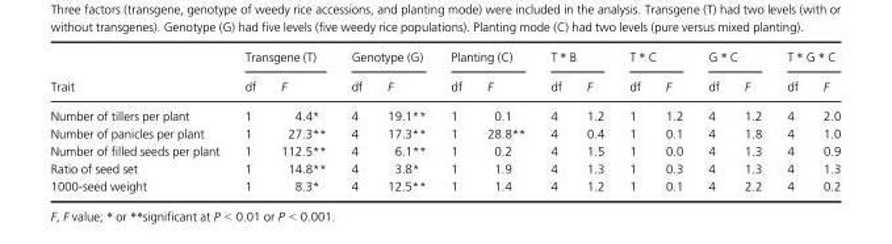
<table><thead><tr><td rowspan="2">Trait</td><td colspan="2">Transgene (T)</td><td colspan="2">Genotype (G)</td><td colspan="2">Planting (C)</td><td colspan="2">T * B</td><td colspan="2">T * C</td><td colspan="2">G * C</td><td colspan="2">T * G * C</td></tr><tr><td>df</td><td>F</td><td>df</td><td>F</td><td>df</td><td>F</td><td>df</td><td>F</td><td>df</td><td>F</td><td>df</td><td>F</td><td>df</td><td>F</td></tr></thead><tbody><tr><td>Number of tillers per plant</td><td>1</td><td>4.4*</td><td>4</td><td>19.1**</td><td>1</td><td>0.1</td><td>4</td><td>1.2</td><td>1</td><td>1.2</td><td>4</td><td>1.2</td><td>4</td><td>2.0</td></tr><tr><td>Number of panicles per plant</td><td>1</td><td>27.3**</td><td>4</td><td>17.3**</td><td>1</td><td>28.8**</td><td>4</td><td>0.4</td><td>1</td><td>0.1</td><td>4</td><td>1.8</td><td>4</td><td>1.0</td></tr><tr><td>Number of filled seeds per plant</td><td>1</td><td>112.5**</td><td>4</td><td>6.1**</td><td>1</td><td>0.2</td><td>4</td><td>1.5</td><td>1</td><td>0.0</td><td>4</td><td>1.3</td><td>4</td><td>0.9</td></tr><tr><td>Ratio of seed set</td><td>1</td><td>14.8**</td><td>4</td><td>3.8*</td><td>1</td><td>1.9</td><td>4</td><td>1.3</td><td>1</td><td>0.3</td><td>4</td><td>1.3</td><td>4</td><td>1.3</td></tr><tr><td>1000-seed weight</td><td>1</td><td>8.3*</td><td>4</td><td>12.5**</td><td>1</td><td>1.4</td><td>4</td><td>1.2</td><td>1</td><td>0.1</td><td>4</td><td>2.2</td><td>4</td><td>0.2</td></tr></tbody></table>